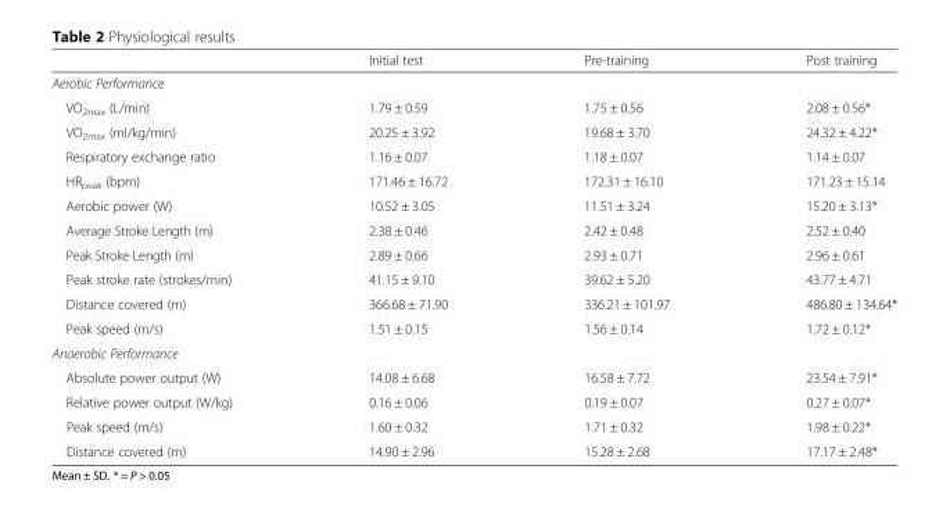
<table><thead><tr><td></td><td>Initial test</td><td>Pre-training</td><td>Post training</td></tr></thead><tbody><tr><td colspan="4">Aerobic Performance</td></tr><tr><td>VO<sub>2max</sub> (L/min)</td><td>1.79 ± 0.59</td><td>1.75 ± 0.56</td><td>2.08 ± 0.56*</td></tr><tr><td>VO<sub>2max</sub> (ml/kg/min)</td><td>20.25 ± 3.92</td><td>19.68 ± 3.70</td><td>24.32 ± 4.22*</td></tr><tr><td>Respiratory exchange ratio</td><td>1.16 ± 0.07</td><td>1.18 ± 0.07</td><td>1.14 ± 0.07</td></tr><tr><td>HR<sub>peak</sub> (bpm)</td><td>171.46 ± 16.72</td><td>172.31 ± 16.10</td><td>171.23 ± 15.14</td></tr><tr><td>Aerobic power (W)</td><td>10.52 ± 3.05</td><td>11.51 ± 3.24</td><td>15.20 ± 3.13*</td></tr><tr><td>Average Stroke Length (m)</td><td>2.38 ± 0.46</td><td>2.42 ± 0.48</td><td>2.52 ± 0.40</td></tr><tr><td>Peak Stroke Length (m)</td><td>2.89 ± 0.66</td><td>2.93 ± 0.71</td><td>2.96 ± 0.61</td></tr><tr><td>Peak stroke rate (strokes/min)</td><td>41.15 ± 9.10</td><td>39.62 ± 5.20</td><td>43.77 ± 4.71</td></tr><tr><td>Distance covered (m)</td><td>366.68 ± 71.90</td><td>336.21 ± 101.97</td><td>486.80 ± 134.64*</td></tr><tr><td>Peak speed (m/s)</td><td>1.51 ± 0.15</td><td>1.56 ± 0.14</td><td>1.72 ± 0.12*</td></tr><tr><td colspan="4">Anaerobic Performance</td></tr><tr><td>Absolute power output (W)</td><td>14.08 ± 6.68</td><td>16.58 ± 7.72</td><td>23.54 ± 7.91*</td></tr><tr><td>Relative power output (W/kg)</td><td>0.16 ± 0.06</td><td>0.19 ± 0.07</td><td>0.27 ± 0.07*</td></tr><tr><td>Peak speed (m/s)</td><td>1.60 ± 0.32</td><td>1.71 ± 0.32</td><td>1.98 ± 0.22*</td></tr><tr><td>Distance covered (m)</td><td>14.90 ± 2.96</td><td>15.28 ± 2.68</td><td>17.17 ± 2.48*</td></tr></tbody></table>